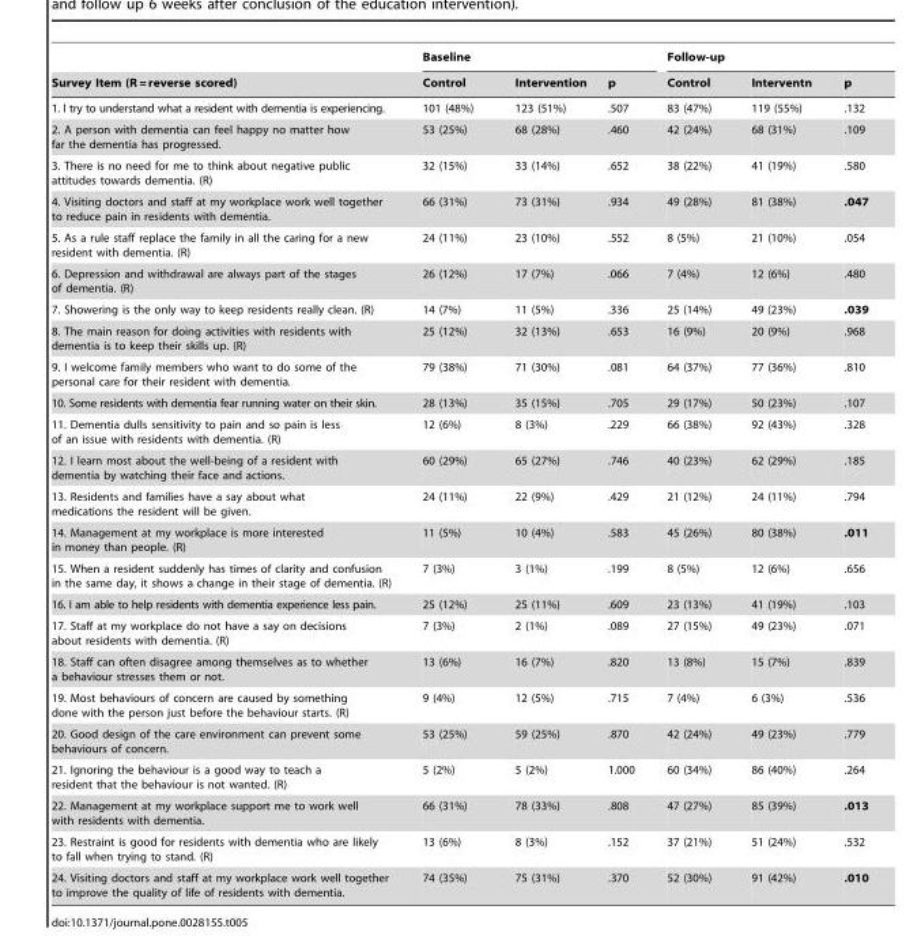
<table><thead><tr><td rowspan="2">Survey Item (R = reverse scored)</td><td colspan="3">Baseline</td><td colspan="3">Follow-up</td></tr><tr><td>Control</td><td>Intervention</td><td>p</td><td>Control</td><td>Interventn</td><td>p</td></tr></thead><tbody><tr><td>1. I try to understand what a resident with dementia is experiencing.</td><td>101 (48%)</td><td>123 (51%)</td><td>.507</td><td>83 (47%)</td><td>119 (55%)</td><td>.132</td></tr><tr><td>2. A person with dementia can feel happy no matter how far the dementia has progressed.</td><td>53 (25%)</td><td>68 (28%)</td><td>.460</td><td>42 (24%)</td><td>68 (31%)</td><td>.109</td></tr><tr><td>3. There is no need for me to think about negative public attitudes towards dementia. (R)</td><td>32 (15%)</td><td>33 (14%)</td><td>.652</td><td>38 (22%)</td><td>41 (19%)</td><td>.580</td></tr><tr><td>4. Visiting doctors and staff at my workplace work well together to reduce pain in residents with dementia.</td><td>66 (31%)</td><td>73 (31%)</td><td>.934</td><td>49 (28%)</td><td>81 (38%)</td><td>.047</td></tr><tr><td>5. As a rule staff replace the family in all the caring for a new resident with dementia. (R)</td><td>24 (11%)</td><td>23 (10%)</td><td>.552</td><td>8 (5%)</td><td>21 (10%)</td><td>.054</td></tr><tr><td>6. Depression and withdrawal are always part of the stages of dementia. (R)</td><td>26 (12%)</td><td>17 (7%)</td><td>.066</td><td>7 (4%)</td><td>12 (6%)</td><td>.480</td></tr><tr><td>7. Showering is the only way to keep residents really clean. (R)</td><td>14 (7%)</td><td>11 (5%)</td><td>.336</td><td>25 (14%)</td><td>49 (23%)</td><td>.039</td></tr><tr><td>8. The main reason for doing activities with residents with dementia is to keep their skills up. (R)</td><td>25 (12%)</td><td>32 (13%)</td><td>.653</td><td>16 (9%)</td><td>20 (9%)</td><td>.968</td></tr><tr><td>9. I welcome family members who want to do some of the personal care for their resident with dementia.</td><td>79 (38%)</td><td>71 (30%)</td><td>.081</td><td>64 (37%)</td><td>77 (36%)</td><td>.810</td></tr><tr><td>10. Some residents with dementia fear running water on their skin.</td><td>28 (13%)</td><td>35 (15%)</td><td>.705</td><td>29 (17%)</td><td>50 (23%)</td><td>.107</td></tr><tr><td>11. Dementia dulls sensitivity to pain and so pain is less of an issue with residents with dementia. (R)</td><td>12 (6%)</td><td>8 (3%)</td><td>.229</td><td>66 (38%)</td><td>92 (43%)</td><td>.328</td></tr><tr><td>12. I learn most about the well-being of a resident with dementia by watching their face and actions.</td><td>60 (29%)</td><td>65 (27%)</td><td>.746</td><td>40 (23%)</td><td>62 (29%)</td><td>.185</td></tr><tr><td>13. Residents and families have a say about what medications the resident will be given.</td><td>24 (11%)</td><td>22 (9%)</td><td>.429</td><td>21 (12%)</td><td>24 (11%)</td><td>.794</td></tr><tr><td>14. Management at my workplace is more interested in money than people. (R)</td><td>11 (5%)</td><td>10 (4%)</td><td>.583</td><td>45 (26%)</td><td>80 (38%)</td><td>.011</td></tr><tr><td>15. When a resident suddenly has times of clarity and confusion in the same day, it shows a change in their stage of dementia. (R)</td><td>7 (3%)</td><td>3 (1%)</td><td>.199</td><td>8 (5%)</td><td>12 (6%)</td><td>.656</td></tr><tr><td>16. I am able to help residents with dementia experience less pain.</td><td>25 (12%)</td><td>25 (11%)</td><td>.609</td><td>23 (13%)</td><td>41 (19%)</td><td>.103</td></tr><tr><td>17. Staff at my workplace do not have a say on decisions about residents with dementia. (R)</td><td>7 (3%)</td><td>2 (1%)</td><td>.089</td><td>27 (15%)</td><td>49 (23%)</td><td>.071</td></tr><tr><td>18. Staff can often disagree among themselves as to whether a behaviour stresses them or not.</td><td>13 (6%)</td><td>16 (7%)</td><td>.820</td><td>13 (8%)</td><td>15 (7%)</td><td>.839</td></tr><tr><td>19. Most behaviours of concern are caused by something done with the person just before the behaviour starts. (R)</td><td>9 (4%)</td><td>12 (5%)</td><td>.715</td><td>7 (4%)</td><td>6 (3%)</td><td>.536</td></tr><tr><td>20. Good design of the care environment can prevent some behaviours of concern.</td><td>53 (25%)</td><td>59 (25%)</td><td>.870</td><td>42 (24%)</td><td>49 (23%)</td><td>.779</td></tr><tr><td>21. Ignoring the behaviour is a good way to teach a resident that the behaviour is not wanted. (R)</td><td>5 (2%)</td><td>5 (2%)</td><td>1.000</td><td>60 (34%)</td><td>86 (40%)</td><td>.264</td></tr><tr><td>22. Management at my workplace support me to work well with residents with dementia.</td><td>66 (31%)</td><td>78 (33%)</td><td>.808</td><td>47 (27%)</td><td>85 (39%)</td><td>.013</td></tr><tr><td>23. Restraint is good for residents with dementia who are likely to fall when trying to stand. (R)</td><td>13 (6%)</td><td>8 (3%)</td><td>.152</td><td>37 (21%)</td><td>51 (24%)</td><td>.532</td></tr><tr><td>24. Visiting doctors and staff at my workplace work well together to improve the quality of life of residents with dementia.</td><td>74 (35%)</td><td>75 (31%)</td><td>.370</td><td>52 (30%)</td><td>91 (42%)</td><td>.010</td></tr></tbody></table>